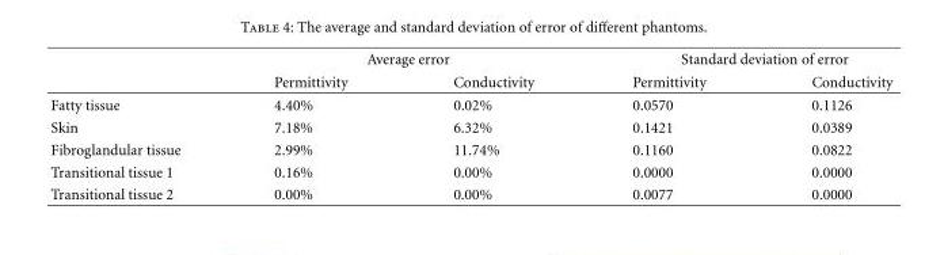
<table><thead><tr><td rowspan="2"></td><td colspan="2">Average error</td><td colspan="2">Standard deviation of error</td></tr><tr><td>Permittivity</td><td>Conductivity</td><td>Permittivity</td><td>Conductivity</td></tr></thead><tbody><tr><td>Fatty tissue</td><td>4.40%</td><td>0.02%</td><td>0.0570</td><td>0.1126</td></tr><tr><td>Skin</td><td>7.18%</td><td>6.32%</td><td>0.1421</td><td>0.0389</td></tr><tr><td>Fibroglandular tissue</td><td>2.99%</td><td>11.74%</td><td>0.1160</td><td>0.0822</td></tr><tr><td>Transitional tissue 1</td><td>0.16%</td><td>0.00%</td><td>0.0000</td><td>0.0000</td></tr><tr><td>Transitional tissue 2</td><td>0.00%</td><td>0.00%</td><td>0.0077</td><td>0.0000</td></tr></tbody></table>